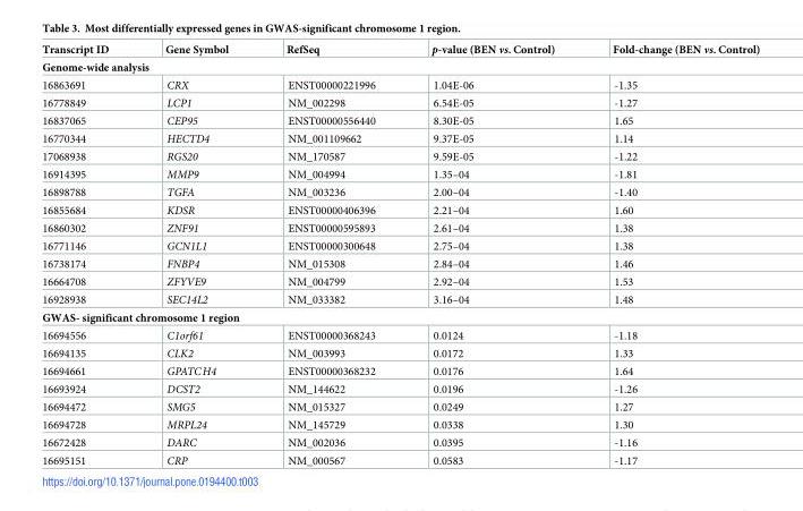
<table><thead><tr><td>Transcript ID</td><td>Gene Symbol</td><td>RefSeq</td><td>p-value (BEN vs. Control)</td><td>Fold-change (BEN vs. Control)</td></tr></thead><tbody><tr><td colspan="5">Genome-wide analysis</td></tr><tr><td>16863691</td><td>CRX</td><td>ENST00000221996</td><td>1.04E-06</td><td>-1.35</td></tr><tr><td>16778849</td><td>LCP1</td><td>NM_002298</td><td>6.54E-05</td><td>-1.27</td></tr><tr><td>16837065</td><td>CEP95</td><td>ENST00000556440</td><td>8.30E-05</td><td>1.65</td></tr><tr><td>16770344</td><td>HECTD4</td><td>NM_001109662</td><td>9.37E-05</td><td>1.14</td></tr><tr><td>17068938</td><td>RGS20</td><td>NM_170587</td><td>9.59E-05</td><td>-1.22</td></tr><tr><td>16914395</td><td>MMP9</td><td>NM_004994</td><td>1.35–04</td><td>-1.81</td></tr><tr><td>16898788</td><td>TGFA</td><td>NM_003236</td><td>2.00–04</td><td>-1.40</td></tr><tr><td>16855684</td><td>KDSR</td><td>ENST00000406396</td><td>2.21–04</td><td>1.60</td></tr><tr><td>16860302</td><td>ZNF91</td><td>ENST00000595893</td><td>2.61–04</td><td>1.38</td></tr><tr><td>16771146</td><td>GCN1L1</td><td>ENST00000300648</td><td>2.75–04</td><td>1.38</td></tr><tr><td>16738174</td><td>FNBP4</td><td>NM_015308</td><td>2.84–04</td><td>1.46</td></tr><tr><td>16664708</td><td>ZFYVE9</td><td>NM_004799</td><td>2.92–04</td><td>1.53</td></tr><tr><td>16928938</td><td>SEC14L2</td><td>NM_033382</td><td>3.16–04</td><td>1.48</td></tr><tr><td colspan="5">GWAS- significant chromosome 1 region</td></tr><tr><td>16694556</td><td>C1orf61</td><td>ENST00000368243</td><td>0.0124</td><td>-1.18</td></tr><tr><td>16694135</td><td>CLK2</td><td>NM_003993</td><td>0.0172</td><td>1.33</td></tr><tr><td>16694661</td><td>GPATCH4</td><td>ENST00000368232</td><td>0.0176</td><td>1.64</td></tr><tr><td>16693924</td><td>DCST2</td><td>NM_144622</td><td>0.0196</td><td>-1.26</td></tr><tr><td>16694472</td><td>SMG5</td><td>NM_015327</td><td>0.0249</td><td>1.27</td></tr><tr><td>16694728</td><td>MRPL24</td><td>NM_145729</td><td>0.0338</td><td>1.30</td></tr><tr><td>16672428</td><td>DARC</td><td>NM_002036</td><td>0.0395</td><td>-1.16</td></tr><tr><td>16695151</td><td>CRP</td><td>NM_000567</td><td>0.0583</td><td>-1.17</td></tr></tbody></table>